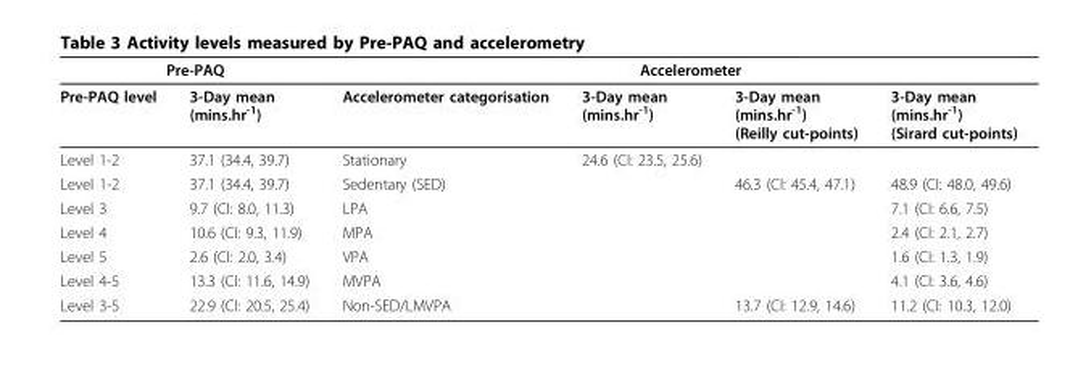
<table><thead><tr><td colspan="2">Pre-PAQ</td><td colspan="4">Accelerometer</td></tr><tr><td>Pre-PAQ level</td><td>3-Day mean (mins.hr<sup>-1</sup>)</td><td>Accelerometer categorisation</td><td>3-Day mean (mins.hr<sup>-1</sup>)</td><td>3-Day mean (mins.hr<sup>-1</sup>) (Reilly cut-points)</td><td>3-Day mean (mins.hr<sup>-1</sup>) (Sirard cut-points)</td></tr></thead><tbody><tr><td>Level 1-2</td><td>37.1 (34.4, 39.7)</td><td>Stationary</td><td>24.6 (CI: 23.5, 25.6)</td><td></td><td></td></tr><tr><td>Level 1-2</td><td>37.1 (34.4, 39.7)</td><td>Sedentary (SED)</td><td></td><td>46.3 (CI: 45.4, 47.1)</td><td>48.9 (CI: 48.0, 49.6)</td></tr><tr><td>Level 3</td><td>9.7 (CI: 8.0, 11.3)</td><td>LPA</td><td></td><td></td><td>7.1 (CI: 6.6, 7.5)</td></tr><tr><td>Level 4</td><td>10.6 (CI: 9.3, 11.9)</td><td>MPA</td><td></td><td></td><td>2.4 (CI: 2.1, 2.7)</td></tr><tr><td>Level 5</td><td>2.6 (CI: 2.0, 3.4)</td><td>VPA</td><td></td><td></td><td>1.6 (CI: 1.3, 1.9)</td></tr><tr><td>Level 4-5</td><td>13.3 (CI: 11.6, 14.9)</td><td>MVPA</td><td></td><td></td><td>4.1 (CI: 3.6, 4.6)</td></tr><tr><td>Level 3-5</td><td>22.9 (CI: 20.5, 25.4)</td><td>Non-SED/LMVPA</td><td></td><td>13.7 (CI: 12.9, 14.6)</td><td>11.2 (CI: 10.3, 12.0)</td></tr></tbody></table>